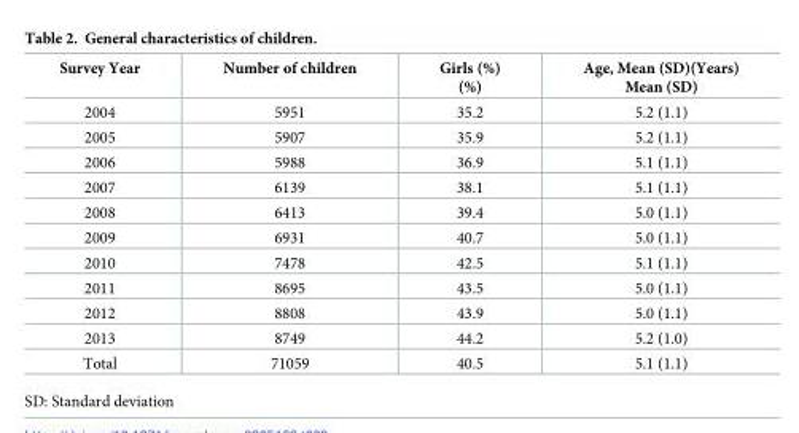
<table><thead><tr><td>Survey Year</td><td>Number of children</td><td>Girls (%) (%)</td><td>Age, Mean (SD)(Years) Mean (SD)</td></tr></thead><tbody><tr><td>2004</td><td>5951</td><td>35.2</td><td>5.2 (1.1)</td></tr><tr><td>2005</td><td>5907</td><td>35.9</td><td>5.2 (1.1)</td></tr><tr><td>2006</td><td>5988</td><td>36.9</td><td>5.1 (1.1)</td></tr><tr><td>2007</td><td>6139</td><td>38.1</td><td>5.1 (1.1)</td></tr><tr><td>2008</td><td>6413</td><td>39.4</td><td>5.0 (1.1)</td></tr><tr><td>2009</td><td>6931</td><td>40.7</td><td>5.0 (1.1)</td></tr><tr><td>2010</td><td>7478</td><td>42.5</td><td>5.1 (1.1)</td></tr><tr><td>2011</td><td>8695</td><td>43.5</td><td>5.0 (1.1)</td></tr><tr><td>2012</td><td>8808</td><td>43.9</td><td>5.0 (1.1)</td></tr><tr><td>2013</td><td>8749</td><td>44.2</td><td>5.2 (1.0)</td></tr><tr><td>Total</td><td>71059</td><td>40.5</td><td>5.1 (1.1)</td></tr></tbody></table>